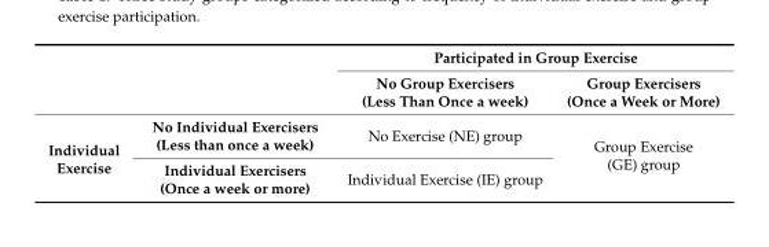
<table><thead><tr><td rowspan="2"></td><td rowspan="2"></td><td colspan="2">Participated in Group Exercise</td></tr><tr><td>No Group Exercisers (Less Than Once a week)</td><td>Group Exercisers (Once a Week or More)</td></tr></thead><tbody><tr><td rowspan="2">Individual Exercise</td><td>No Individual Exercisers (Less than once a week)</td><td>No Exercise (NE) group</td><td rowspan="2">Group Exercise (GE) group</td></tr><tr><td>Individual Exercisers (Once a week or more)</td><td>Individual Exercise (IE) group</td></tr></tbody></table>